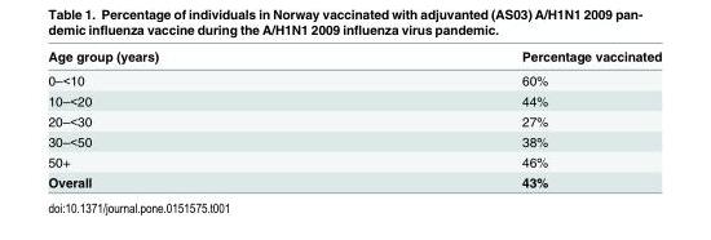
<table><thead><tr><td>Age group (years)</td><td>Percentage vaccinated</td></tr></thead><tbody><tr><td>0–&lt;10</td><td>60%</td></tr><tr><td>10–&lt;20</td><td>44%</td></tr><tr><td>20–&lt;30</td><td>27%</td></tr><tr><td>30–&lt;50</td><td>38%</td></tr><tr><td>50+</td><td>46%</td></tr><tr><td>Overall</td><td>43%</td></tr></tbody></table>